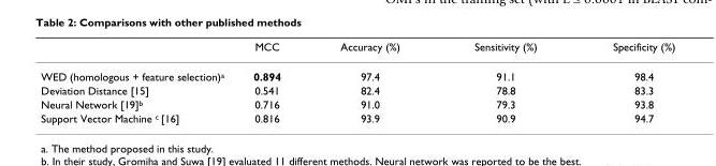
<table><thead><tr><td></td><td>MCC</td><td>Accuracy (%)</td><td>Sensitivity (%)</td><td>Specificity (%)</td></tr></thead><tbody><tr><td>WED (homologous + feature selection)<sup>a</sup></td><td>0.894</td><td>97.4</td><td>91.1</td><td>98.4</td></tr><tr><td>Deviation Distance [15]</td><td>0.541</td><td>82.4</td><td>78.8</td><td>83.3</td></tr><tr><td>Neural Network [19]<sup>b</sup></td><td>0.716</td><td>91.0</td><td>79.3</td><td>93.8</td></tr><tr><td>Support Vector Machine <sup>c</sup> [16]</td><td>0.816</td><td>93.9</td><td>90.9</td><td>94.7</td></tr></tbody></table>